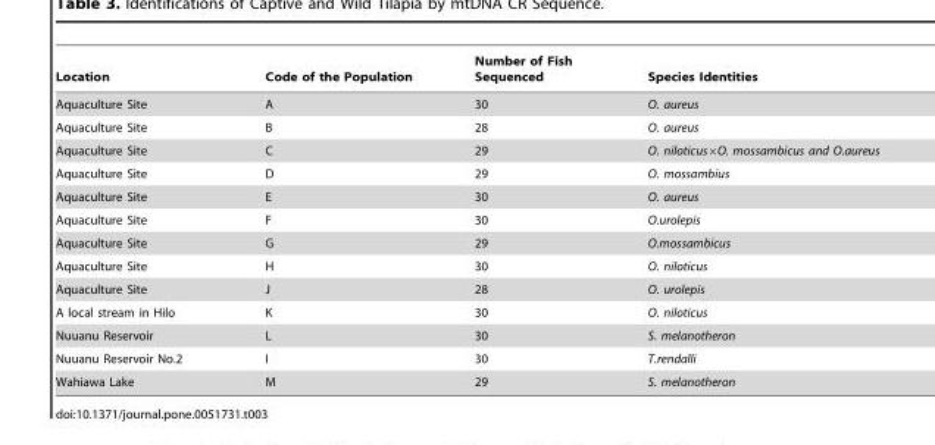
<table><thead><tr><td>Location</td><td>Code of the Population</td><td>Number of Fish Sequenced</td><td>Species Identities</td></tr></thead><tbody><tr><td>Aquaculture Site</td><td>A</td><td>30</td><td>O. aureus</td></tr><tr><td>Aquaculture Site</td><td>B</td><td>28</td><td>O. aureus</td></tr><tr><td>Aquaculture Site</td><td>C</td><td>29</td><td>O. niloticus×O. mossambicus and O.aureus</td></tr><tr><td>Aquaculture Site</td><td>D</td><td>29</td><td>O. mossambius</td></tr><tr><td>Aquaculture Site</td><td>E</td><td>30</td><td>O. aureus</td></tr><tr><td>Aquaculture Site</td><td>F</td><td>30</td><td>O.urolepis</td></tr><tr><td>Aquaculture Site</td><td>G</td><td>29</td><td>O.mossambicus</td></tr><tr><td>Aquaculture Site</td><td>H</td><td>30</td><td>O. niloticus</td></tr><tr><td>Aquaculture Site</td><td>J</td><td>28</td><td>O. urolepis</td></tr><tr><td>A local stream in Hilo</td><td>K</td><td>30</td><td>O. niloticus</td></tr><tr><td>Nuuanu Reservoir</td><td>L</td><td>30</td><td>S. melanotheron</td></tr><tr><td>Nuuanu Reservoir No.2</td><td>I</td><td>30</td><td>T.rendalli</td></tr><tr><td>Wahiawa Lake</td><td>M</td><td>29</td><td>S. melanotheron</td></tr></tbody></table>